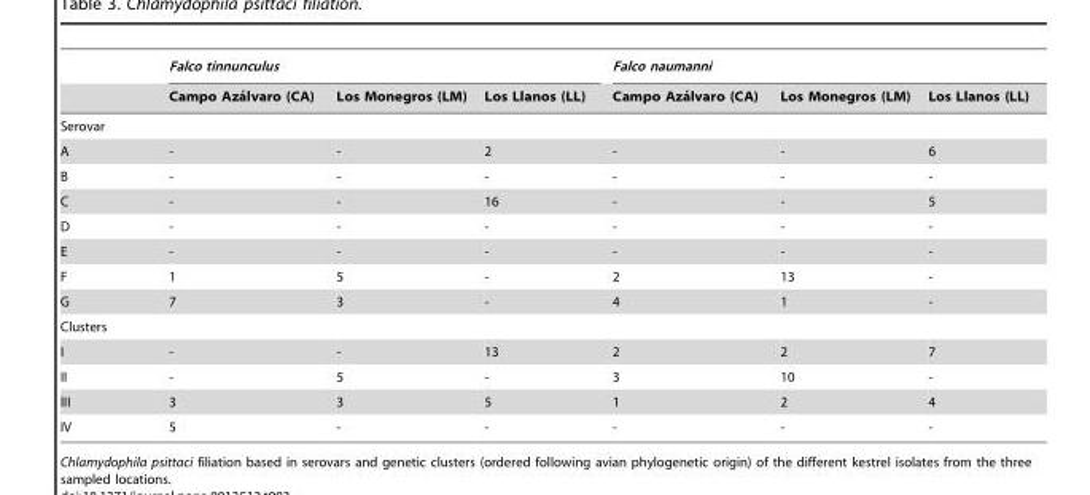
<table><thead><tr><td rowspan="2"></td><td colspan="3">Falco tinnunculus</td><td colspan="3">Falco naumanni</td></tr><tr><td>Campo Aza´lvaro (CA)</td><td>Los Monegros (LM)</td><td>Los Llanos (LL)</td><td>Campo Aza´lvaro (CA)</td><td>Los Monegros (LM)</td><td>Los Llanos (LL)</td></tr></thead><tbody><tr><td colspan="7">Serovar</td></tr><tr><td>A</td><td>-</td><td>-</td><td>2</td><td>-</td><td>-</td><td>6</td></tr><tr><td>B</td><td>-</td><td>-</td><td>-</td><td>-</td><td>-</td><td>-</td></tr><tr><td>C</td><td>-</td><td>-</td><td>16</td><td>-</td><td>-</td><td>5</td></tr><tr><td>D</td><td>-</td><td>-</td><td>-</td><td>-</td><td>-</td><td>-</td></tr><tr><td>E</td><td>-</td><td>-</td><td>-</td><td>-</td><td>-</td><td>-</td></tr><tr><td>F</td><td>1</td><td>5</td><td>-</td><td>2</td><td>13</td><td>-</td></tr><tr><td>G</td><td>7</td><td>3</td><td>-</td><td>4</td><td>1</td><td>-</td></tr><tr><td colspan="7">Clusters</td></tr><tr><td>I</td><td>-</td><td>-</td><td>13</td><td>2</td><td>2</td><td>7</td></tr><tr><td>II</td><td>-</td><td>5</td><td>-</td><td>3</td><td>10</td><td>-</td></tr><tr><td>III</td><td>3</td><td>3</td><td>5</td><td>1</td><td>2</td><td>4</td></tr><tr><td>IV</td><td>5</td><td>-</td><td>-</td><td>-</td><td>-</td><td>-</td></tr></tbody></table>